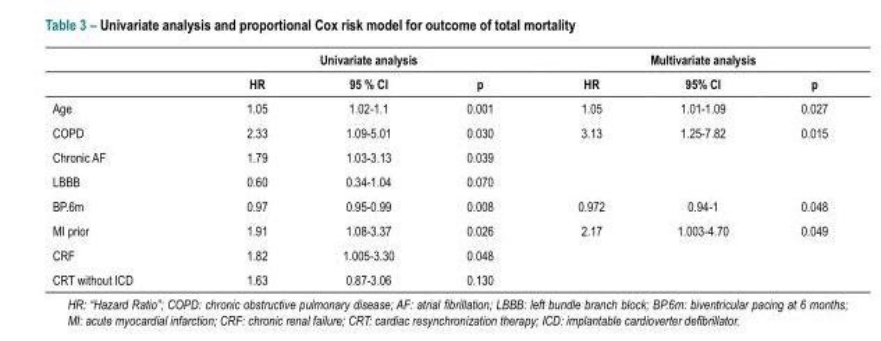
<table><thead><tr><td rowspan="2"></td><td colspan="3">Univariate analysis</td><td colspan="3">Multivariate analysis</td></tr><tr><td>HR</td><td>95 % CI</td><td>p</td><td>HR</td><td>95% CI</td><td>p</td></tr></thead><tbody><tr><td>Age</td><td>1.05</td><td>1.02-1.1</td><td>0.001</td><td>1.05</td><td>1.01-1.09</td><td>0.027</td></tr><tr><td>COPD</td><td>2.33</td><td>1.09-5.01</td><td>0.030</td><td>3.13</td><td>1.25-7.82</td><td>0.015</td></tr><tr><td>Chronic AF</td><td>1.79</td><td>1.03-3.13</td><td>0.039</td><td></td><td></td><td></td></tr><tr><td>LBBB</td><td>0.60</td><td>0.34-1.04</td><td>0.070</td><td></td><td></td><td></td></tr><tr><td>BP.6m</td><td>0.97</td><td>0.95-0.99</td><td>0.008</td><td>0.972</td><td>0.94-1</td><td>0.048</td></tr><tr><td>MI prior</td><td>1.91</td><td>1.08-3.37</td><td>0.026</td><td>2.17</td><td>1.003-4.70</td><td>0.049</td></tr><tr><td>CRF</td><td>1.82</td><td>1.005-3.30</td><td>0.048</td><td></td><td></td><td></td></tr><tr><td>CRT without ICD</td><td>1.63</td><td>0.87-3.06</td><td>0.130</td><td></td><td></td><td></td></tr></tbody></table>